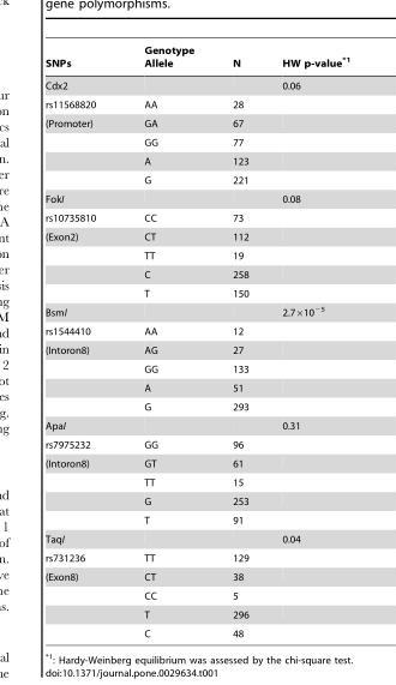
<table><thead><tr><td>SNPs</td><td>Genotype Allele</td><td>N</td><td>HW p-value*1</td></tr></thead><tbody><tr><td>Cdx2</td><td></td><td></td><td>0.06</td></tr><tr><td>rs11568820</td><td>AA</td><td>28</td><td></td></tr><tr><td rowspan="4">(Promoter)</td><td>GA</td><td>67</td><td></td></tr><tr><td>GG</td><td>77</td><td></td></tr><tr><td>A</td><td>123</td><td></td></tr><tr><td>G</td><td>221</td><td></td></tr><tr><td>FokI</td><td></td><td></td><td>0.08</td></tr><tr><td>rs10735810</td><td>CC</td><td>73</td><td></td></tr><tr><td rowspan="4">(Exon2)</td><td>CT</td><td>112</td><td></td></tr><tr><td>TT</td><td>19</td><td></td></tr><tr><td>C</td><td>258</td><td></td></tr><tr><td>T</td><td>150</td><td></td></tr><tr><td>BsmI</td><td></td><td></td><td>2.7×10<sup>−5</sup></td></tr><tr><td>rs1544410</td><td>AA</td><td>12</td><td></td></tr><tr><td rowspan="4">(Intoron8)</td><td>AG</td><td>27</td><td></td></tr><tr><td>GG</td><td>133</td><td></td></tr><tr><td>A</td><td>51</td><td></td></tr><tr><td>G</td><td>293</td><td></td></tr><tr><td>ApaI</td><td></td><td></td><td>0.31</td></tr><tr><td>rs7975232</td><td>GG</td><td>96</td><td></td></tr><tr><td rowspan="4">(Intoron8)</td><td>GT</td><td>61</td><td></td></tr><tr><td>TT</td><td>15</td><td></td></tr><tr><td>G</td><td>253</td><td></td></tr><tr><td>T</td><td>91</td><td></td></tr><tr><td>TaqI</td><td></td><td></td><td>0.04</td></tr><tr><td>rs731236</td><td>TT</td><td>129</td><td></td></tr><tr><td rowspan="4">(Exon8)</td><td>CT</td><td>38</td><td></td></tr><tr><td>CC</td><td>5</td><td></td></tr><tr><td>T</td><td>296</td><td></td></tr><tr><td>C</td><td>48</td><td></td></tr></tbody></table>